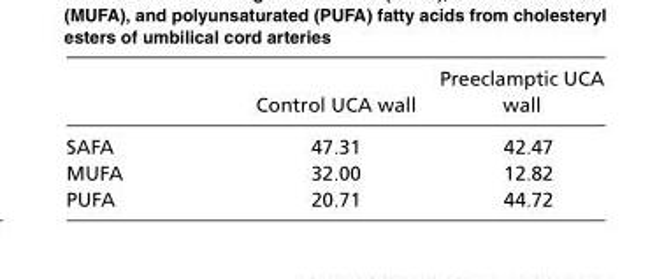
<table><thead><tr><td></td><td>Control UCA wall</td><td>Preeclamptic UCA wall</td></tr></thead><tbody><tr><td>SAFA</td><td>47.31</td><td>42.47</td></tr><tr><td>MUFA</td><td>32.00</td><td>12.82</td></tr><tr><td>PUFA</td><td>20.71</td><td>44.72</td></tr></tbody></table>